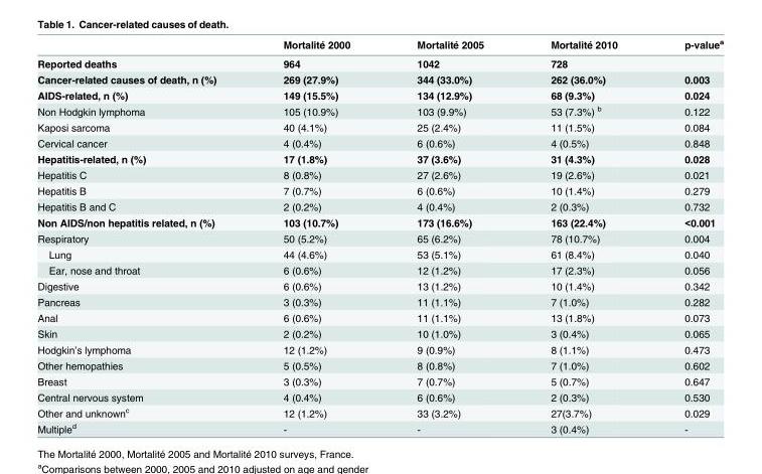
<table><thead><tr><td></td><td>Mortalité 2000</td><td>Mortalité 2005</td><td>Mortalité 2010</td><td>p-value<sup>a</sup></td></tr></thead><tbody><tr><td>Reported deaths</td><td>964</td><td>1042</td><td>728</td><td></td></tr><tr><td>Cancer-related causes of death, n (%)</td><td>269 (27.9%)</td><td>344 (33.0%)</td><td>262 (36.0%)</td><td>0.003</td></tr><tr><td>AIDS-related, n (%)</td><td>149 (15.5%)</td><td>134 (12.9%)</td><td>68 (9.3%)</td><td>0.024</td></tr><tr><td>Non Hodgkin lymphoma</td><td>105 (10.9%)</td><td>103 (9.9%)</td><td>53 (7.3%) <sup>b</sup></td><td>0.122</td></tr><tr><td>Kaposi sarcoma</td><td>40 (4.1%)</td><td>25 (2.4%)</td><td>11 (1.5%)</td><td>0.084</td></tr><tr><td>Cervical cancer</td><td>4 (0.4%)</td><td>6 (0.6%)</td><td>4 (0.5%)</td><td>0.848</td></tr><tr><td>Hepatitis-related, n (%)</td><td>17 (1.8%)</td><td>37 (3.6%)</td><td>31 (4.3%)</td><td>0.028</td></tr><tr><td>Hepatitis C</td><td>8 (0.8%)</td><td>27 (2.6%)</td><td>19 (2.6%)</td><td>0.021</td></tr><tr><td>Hepatitis B</td><td>7 (0.7%)</td><td>6 (0.6%)</td><td>10 (1.4%)</td><td>0.279</td></tr><tr><td>Hepatitis B and C</td><td>2 (0.2%)</td><td>4 (0.4%)</td><td>2 (0.3%)</td><td>0.732</td></tr><tr><td>Non AIDS/non hepatitis related, n (%)</td><td>103 (10.7%)</td><td>173 (16.6%)</td><td>163 (22.4%)</td><td>&lt;0.001</td></tr><tr><td>Respiratory</td><td>50 (5.2%)</td><td>65 (6.2%)</td><td>78 (10.7%)</td><td>0.004</td></tr><tr><td>Lung</td><td>44 (4.6%)</td><td>53 (5.1%)</td><td>61 (8.4%)</td><td>0.040</td></tr><tr><td>Ear, nose and throat</td><td>6 (0.6%)</td><td>12 (1.2%)</td><td>17 (2.3%)</td><td>0.056</td></tr><tr><td>Digestive</td><td>6 (0.6%)</td><td>13 (1.2%)</td><td>10 (1.4%)</td><td>0.342</td></tr><tr><td>Pancreas</td><td>3 (0.3%)</td><td>11 (1.1%)</td><td>7 (1.0%)</td><td>0.282</td></tr><tr><td>Anal</td><td>6 (0.6%)</td><td>11 (1.1%)</td><td>13 (1.8%)</td><td>0.073</td></tr><tr><td>Skin</td><td>2 (0.2%)</td><td>10 (1.0%)</td><td>3 (0.4%)</td><td>0.065</td></tr><tr><td>Hodgkin’s lymphoma</td><td>12 (1.2%)</td><td>9 (0.9%)</td><td>8 (1.1%)</td><td>0.473</td></tr><tr><td>Other hemopathies</td><td>5 (0.5%)</td><td>8 (0.8%)</td><td>7 (1.0%)</td><td>0.602</td></tr><tr><td>Breast</td><td>3 (0.3%)</td><td>7 (0.7%)</td><td>5 (0.7%)</td><td>0.647</td></tr><tr><td>Central nervous system</td><td>4 (0.4%)</td><td>6 (0.6%)</td><td>2 (0.3%)</td><td>0.530</td></tr><tr><td>Other and unknown<sup>c</sup></td><td>12 (1.2%)</td><td>33 (3.2%)</td><td>27(3.7%)</td><td>0.029</td></tr><tr><td>Multiple<sup>d</sup></td><td>-</td><td>-</td><td>3 (0.4%)</td><td>-</td></tr></tbody></table>